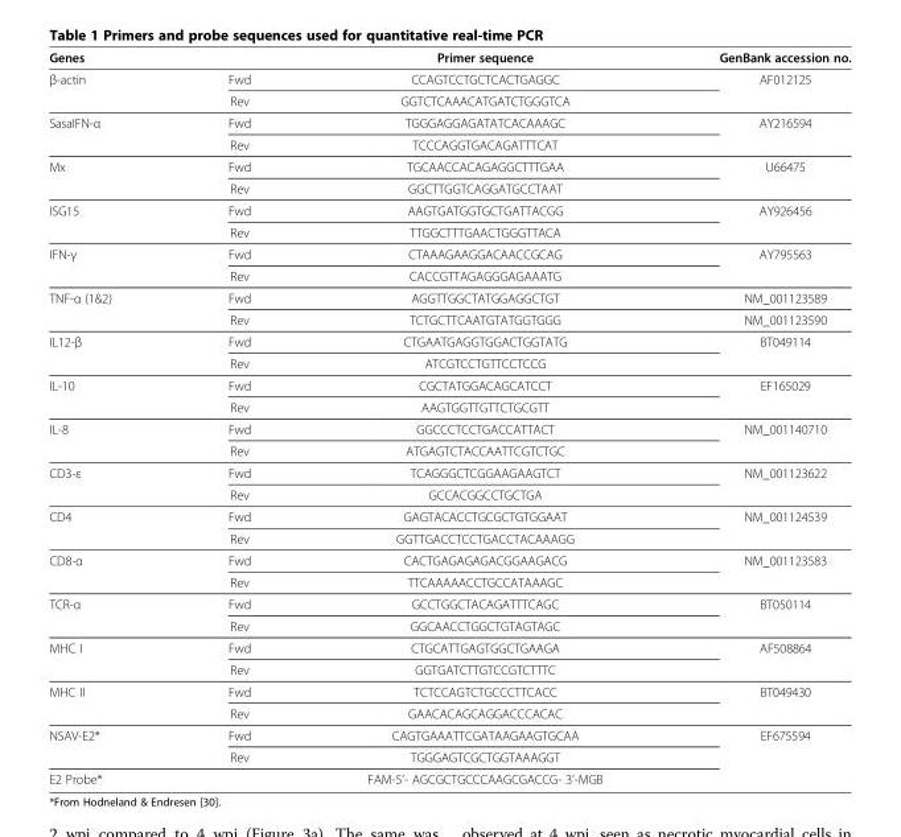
<table><thead><tr><td colspan="2">Genes</td><td rowspan="2">Primer sequence CCAGTCCTGCTCACTGAGGC</td><td rowspan="2">GenBank accession no. AF012125</td></tr><tr><td>β-actin</td><td>Fwd</td></tr></thead><tbody><tr><td></td><td>Rev</td><td>GGTCTCAAACATGATCTGGGTCA</td><td></td></tr><tr><td rowspan="2">SasaIFN-α</td><td>Fwd</td><td>TGGGAGGAGATATCACAAAGC</td><td>AY216594</td></tr><tr><td>Rev</td><td>TCCCAGGTGACAGATTTCAT</td><td></td></tr><tr><td rowspan="2">Mx</td><td>Fwd</td><td>TGCAACCACAGAGGCTTTGAA</td><td>U66475</td></tr><tr><td>Rev</td><td>GGCTTGGTCAGGATGCCTAAT</td><td></td></tr><tr><td rowspan="2">ISG15</td><td>Fwd</td><td>AAGTGATGGTGCTGATTACGG</td><td>AY926456</td></tr><tr><td>Rev</td><td>TTGGCTTTGAACTGGGTTACA</td><td></td></tr><tr><td rowspan="2">IFN-γ</td><td>Fwd</td><td>CTAAAGAAGGACAACCGCAG</td><td>AY795563</td></tr><tr><td>Rev</td><td>CACCGTTAGAGGGAGAAATG</td><td></td></tr><tr><td rowspan="2">TNF-α (1&amp;2)</td><td>Fwd</td><td>AGGTTGGCTATGGAGGCTGT</td><td>NM_001123589</td></tr><tr><td>Rev</td><td>TCTGCTTCAATGTATGGTGGG</td><td>NM_001123590</td></tr><tr><td rowspan="2">IL12-β</td><td>Fwd</td><td>CTGAATGAGGTGGACTGGTATG</td><td>BT049114</td></tr><tr><td>Rev</td><td>ATCGTCCTGTTCCTCCG</td><td></td></tr><tr><td rowspan="2">IL-10</td><td>Fwd</td><td>CGCTATGGACAGCATCCT</td><td>EF165029</td></tr><tr><td>Rev</td><td>AAGTGGTTGTTCTGCGTT</td><td></td></tr><tr><td rowspan="2">IL-8</td><td>Fwd</td><td>GGCCCTCCTGACCATTACT</td><td>NM_001140710</td></tr><tr><td>Rev</td><td>ATGAGTCTACCAATTCGTCTGC</td><td></td></tr><tr><td rowspan="2">CD3-ε</td><td>Fwd</td><td>TCAGGGCTCGGAAGAAGTCT</td><td>NM_001123622</td></tr><tr><td>Rev</td><td>GCCACGGCCTGCTGA</td><td></td></tr><tr><td rowspan="2">CD4</td><td>Fwd</td><td>GAGTACACCTGCGCTGTGGAAT</td><td>NM_001124539</td></tr><tr><td>Rev</td><td>GGTTGACCTCCTGACCTACAAAGG</td><td></td></tr><tr><td rowspan="2">CD8-α</td><td>Fwd</td><td>CACTGAGAGAGACGGAAGACG</td><td>NM_001123583</td></tr><tr><td>Rev</td><td>TTCAAAAACCTGCCATAAAGC</td><td></td></tr><tr><td rowspan="2">TCR-α</td><td>Fwd</td><td>GCCTGGCTACAGATTTCAGC</td><td>BT050114</td></tr><tr><td>Rev</td><td>GGCAACCTGGCTGTAGTAGC</td><td></td></tr><tr><td rowspan="2">MHC I</td><td>Fwd</td><td>CTGCATTGAGTGGCTGAAGA</td><td>AF508864</td></tr><tr><td>Rev</td><td>GGTGATCTTGTCCGTCTTTC</td><td></td></tr><tr><td rowspan="2">MHC II</td><td>Fwd</td><td>TCTCCAGTCTGCCCTTCACC</td><td>BT049430</td></tr><tr><td>Rev</td><td>GAACACAGCAGGACCCACAC</td><td></td></tr><tr><td rowspan="2">NSAV-E2*</td><td>Fwd</td><td>CAGTGAAATTCGATAAGAAGTGCAA</td><td>EF675594</td></tr><tr><td>Rev</td><td>TGGGAGTCGCTGGTAAAGGT</td><td></td></tr><tr><td>E2 Probe*</td><td></td><td>FAM-5’- AGCGCTGCCCAAGCGACCG- 3’-MGB</td><td></td></tr></tbody></table>